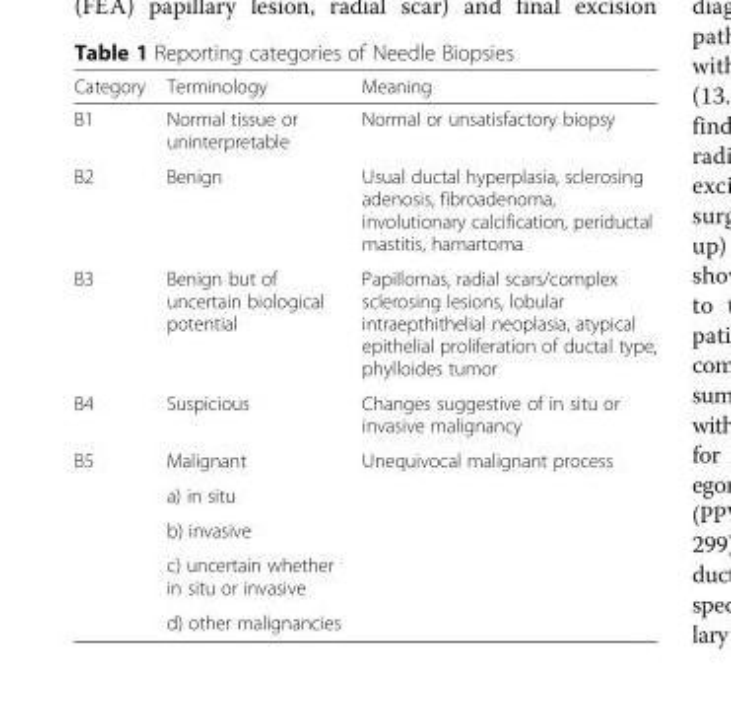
<table><thead><tr><td>Category</td><td>Terminology</td><td>Meaning</td></tr></thead><tbody><tr><td>B1</td><td>Normal tissue or uninterpretable</td><td>Normal or unsatisfactory biopsy</td></tr><tr><td>B2</td><td>Benign</td><td>Usual ductal hyperplasia, sclerosing adenosis, fibroadenoma, involutionary calcification, periductal mastitis, hamartoma</td></tr><tr><td>B3</td><td>Benign but of uncertain biological potential</td><td>Papillomas, radial scars/complex sclerosing lesions, lobular intraepthithelial neoplasia, atypical epithelial proliferation of ductal type, phylloides tumor</td></tr><tr><td>B4</td><td>Suspicious</td><td>Changes suggestive of in situ or invasive malignancy</td></tr><tr><td rowspan="5">B5</td><td>Malignant</td><td rowspan="5">Unequivocal malignant process</td></tr><tr><td>a) in situ</td></tr><tr><td>b) invasive</td></tr><tr><td>c) uncertain whether in situ or invasive</td></tr><tr><td>d) other malignancies</td></tr></tbody></table>